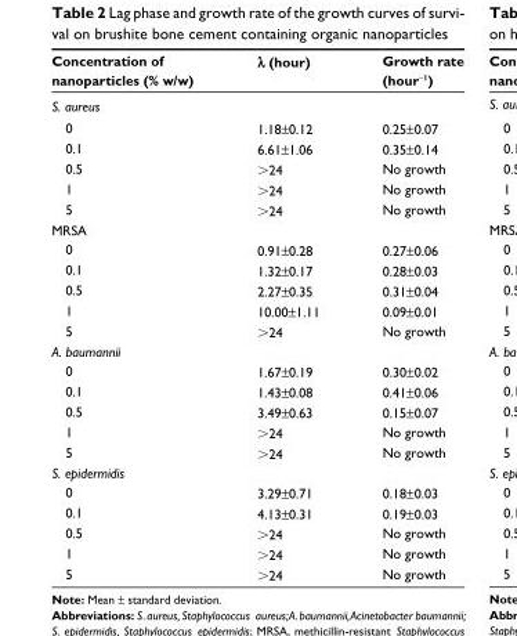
<table><thead><tr><td>Concentration of nanoparticles (% w/w)</td><td>λ (hour)</td><td>Growth rate (hour<sup>−1</sup>)</td></tr></thead><tbody><tr><td colspan="3">S. aureus</td></tr><tr><td>0</td><td>1.18±0.12</td><td>0.25±0.07</td></tr><tr><td>0.1</td><td>6.61±1.06</td><td>0.35±0.14</td></tr><tr><td>0.5</td><td>&gt;24</td><td>No growth</td></tr><tr><td>1</td><td>&gt;24</td><td>No growth</td></tr><tr><td>5</td><td>&gt;24</td><td>No growth</td></tr><tr><td colspan="3">Mrsa</td></tr><tr><td>0</td><td>0.91±0.28</td><td>0.27±0.06</td></tr><tr><td>0.1</td><td>1.32±0.17</td><td>0.28±0.03</td></tr><tr><td>0.5</td><td>2.27±0.35</td><td>0.31±0.04</td></tr><tr><td>1</td><td>10.00±1.11</td><td>0.09±0.01</td></tr><tr><td>5</td><td>&gt;24</td><td>No growth</td></tr><tr><td colspan="3">A. baumannii</td></tr><tr><td>0</td><td>1.67±0.19</td><td>0.30±0.02</td></tr><tr><td>0.1</td><td>1.43±0.08</td><td>0.41±0.06</td></tr><tr><td>0.5</td><td>3.49±0.63</td><td>0.15±0.07</td></tr><tr><td>1</td><td>&gt;24</td><td>No growth</td></tr><tr><td>5</td><td>&gt;24</td><td>No growth</td></tr><tr><td colspan="3">S. epidermidis</td></tr><tr><td>0</td><td>3.29±0.71</td><td>0.18±0.03</td></tr><tr><td>0.1</td><td>4.13±0.31</td><td>0.19±0.03</td></tr><tr><td>0.5</td><td>&gt;24</td><td>No growth</td></tr><tr><td>1</td><td>&gt;24</td><td>No growth</td></tr><tr><td>5</td><td>&gt;24</td><td>No growth</td></tr></tbody></table>